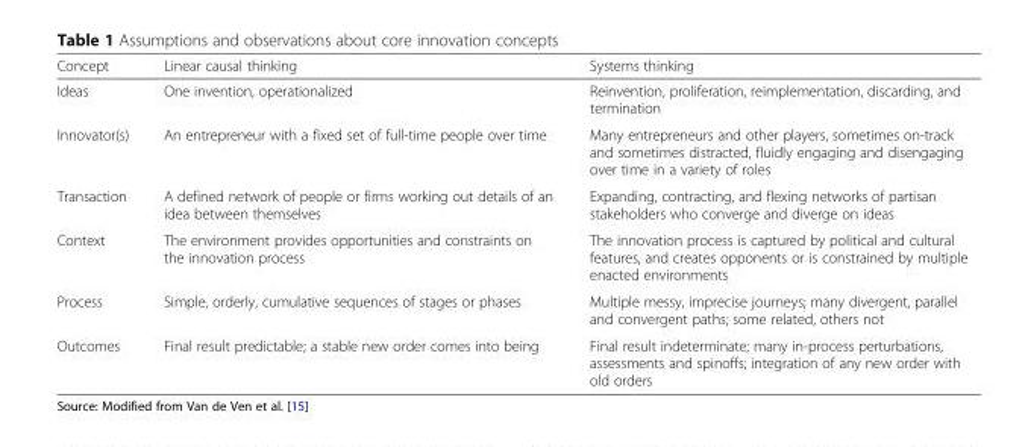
<table><thead><tr><td>Concept</td><td>Linear causal thinking</td><td>Systems thinking</td></tr></thead><tbody><tr><td>Ideas</td><td>One invention, operationalized</td><td>Reinvention, proliferation, reimplementation, discarding, and termination</td></tr><tr><td>Innovator(s)</td><td>An entrepreneur with a fixed set of full-time people over time</td><td>Many entrepreneurs and other players, sometimes on-track and sometimes distracted, fluidly engaging and disengaging over time in a variety of roles</td></tr><tr><td>Transaction</td><td>A defined network of people or firms working out details of an idea between themselves</td><td>Expanding, contracting, and flexing networks of partisan stakeholders who converge and diverge on ideas</td></tr><tr><td>Context</td><td>The environment provides opportunities and constraints on the innovation process</td><td>The innovation process is captured by political and cultural features, and creates opponents or is constrained by multiple enacted environments</td></tr><tr><td>Process</td><td>Simple, orderly, cumulative sequences of stages or phases</td><td>Multiple messy, imprecise journeys; many divergent, parallel and convergent paths; some related, others not</td></tr><tr><td>Outcomes</td><td>Final result predictable; a stable new order comes into being</td><td>Final result indeterminate; many in-process perturbations, assessments and spinoffs; integration of any new order with old orders</td></tr></tbody></table>